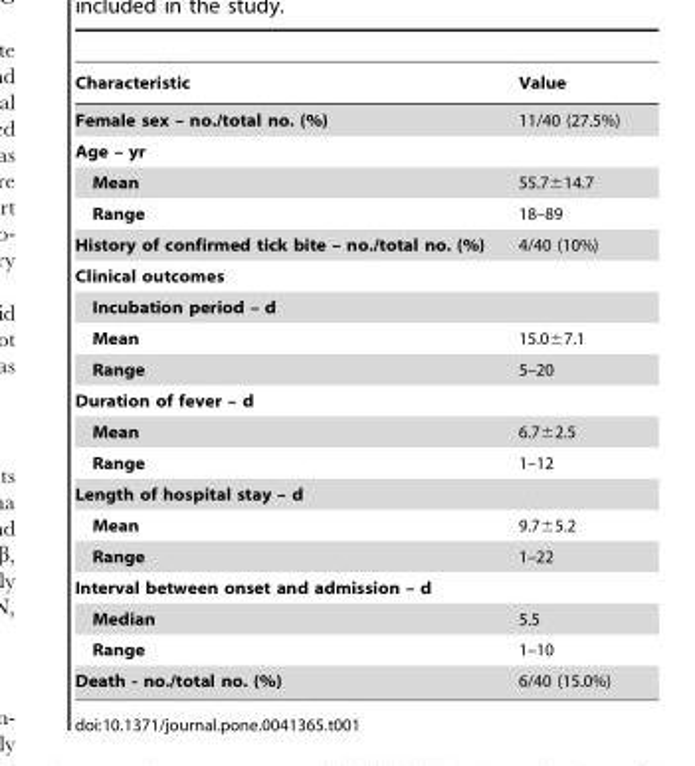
<table><thead><tr><td>Characteristic</td><td>Value</td></tr></thead><tbody><tr><td>Female sex – no./total no. (%)</td><td>11/40 (27.5%)</td></tr><tr><td colspan="2">Age – yr</td></tr><tr><td>Mean</td><td>55.7±14.7</td></tr><tr><td>Range</td><td>18–89</td></tr><tr><td>History of confirmed tick bite – no./total no. (%)</td><td>4/40 (10%)</td></tr><tr><td colspan="2">Clinical outcomes</td></tr><tr><td colspan="2">Incubation period – d</td></tr><tr><td>Mean</td><td>15.0±7.1</td></tr><tr><td>Range</td><td>5–20</td></tr><tr><td colspan="2">Duration of fever – d</td></tr><tr><td>Mean</td><td>6.7±2.5</td></tr><tr><td>Range</td><td>1–12</td></tr><tr><td colspan="2">Length of hospital stay – d</td></tr><tr><td>Mean</td><td>9.7±5.2</td></tr><tr><td>Range</td><td>1–22</td></tr><tr><td colspan="2">Interval between onset and admission – d</td></tr><tr><td>Median</td><td>5.5</td></tr><tr><td>Range</td><td>1–10</td></tr><tr><td>Death - no./total no. (%)</td><td>6/40 (15.0%)</td></tr></tbody></table>